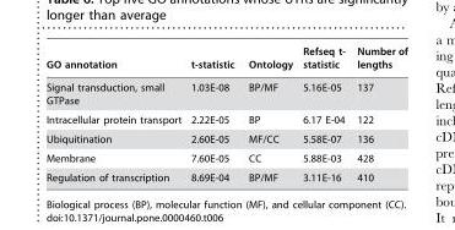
<table><thead><tr><td>GO annotation</td><td>t-statistic</td><td>Ontology</td><td>Refseq t- statistic</td><td>Number of lengths</td></tr></thead><tbody><tr><td>Signal transduction, small GTPase</td><td>1.03E-08</td><td>BP/MF</td><td>5.16E-05</td><td>137</td></tr><tr><td>Intracellular protein transport</td><td>2.22E-05</td><td>BP</td><td>6.17 E-04</td><td>122</td></tr><tr><td>Ubiquitination</td><td>2.60E-05</td><td>MF/CC</td><td>5.58E-07</td><td>136</td></tr><tr><td>Membrane</td><td>7.60E-05</td><td>CC</td><td>5.88E-03</td><td>428</td></tr><tr><td>Regulation of transcription</td><td>8.69E-04</td><td>BP/MF</td><td>3.11E-16</td><td>410</td></tr></tbody></table>